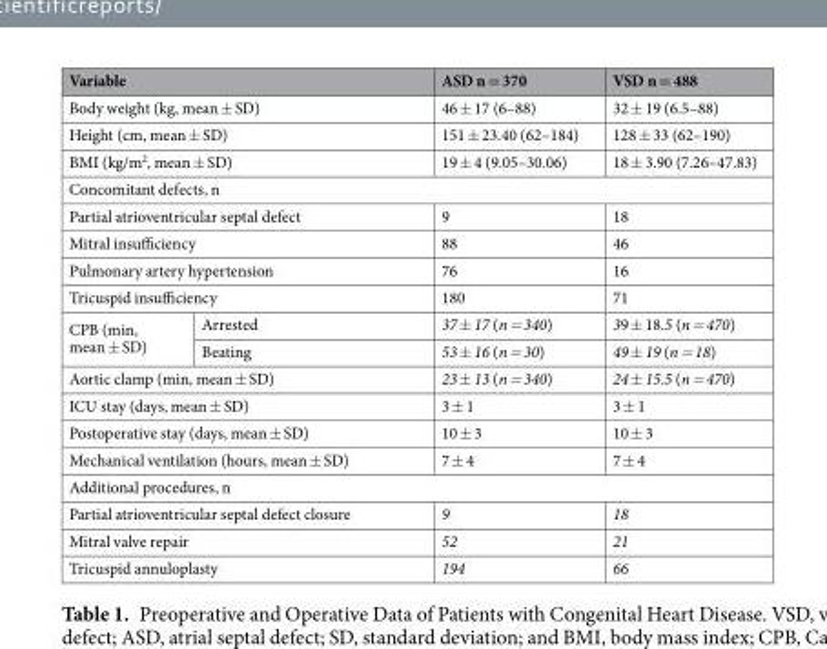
<table><thead><tr><td colspan="2">Variable</td><td>ASD n = 370</td><td>VSD n = 488</td></tr></thead><tbody><tr><td colspan="2">Body weight (kg, mean ± SD)</td><td>46 ± 17 (6–88)</td><td>32 ± 19 (6.5–88)</td></tr><tr><td colspan="2">Height (cm, mean ± SD)</td><td>151 ± 23.40 (62–184)</td><td>128 ± 33 (62–190)</td></tr><tr><td colspan="2">BMI (kg/m<sup>2</sup>, mean ± SD)</td><td>19 ± 4 (9.05–30.06)</td><td>18 ± 3.90 (7.26–47.83)</td></tr><tr><td colspan="4">Concomitant defects, n</td></tr><tr><td colspan="2">Partial atrioventricular septal defect</td><td>9</td><td>18</td></tr><tr><td colspan="2">Mitral insufficiency</td><td>88</td><td>46</td></tr><tr><td colspan="2">Pulmonary artery hypertension</td><td>76</td><td>16</td></tr><tr><td colspan="2">Tricuspid insufficiency</td><td>180</td><td>71</td></tr><tr><td rowspan="2">CPB (min, mean ± SD)</td><td>Arrested</td><td>37 ± 17 (n = 340)</td><td>39 ± 18.5 (n = 470)</td></tr><tr><td>Beating</td><td>53 ± 16 (n = 30)</td><td>49 ± 19 (n = 18)</td></tr><tr><td colspan="2">Aortic clamp (min, mean ± SD)</td><td>23 ± 13 (n = 340)</td><td>24 ± 15.5 (n = 470)</td></tr><tr><td colspan="2">ICU stay (days, mean ± SD)</td><td>3 ± 1</td><td>3 ± 1</td></tr><tr><td colspan="2">Postoperative stay (days, mean ± SD)</td><td>10 ± 3</td><td>10 ± 3</td></tr><tr><td colspan="2">Mechanical ventilation (hours, mean ± SD)</td><td>7 ± 4</td><td>7 ± 4</td></tr><tr><td colspan="4">Additional procedures, n</td></tr><tr><td colspan="2">Partial atrioventricular septal defect closure</td><td>9</td><td>18</td></tr><tr><td colspan="2">Mitral valve repair</td><td>52</td><td>21</td></tr><tr><td colspan="2">Tricuspid annuloplasty</td><td>194</td><td>66</td></tr></tbody></table>